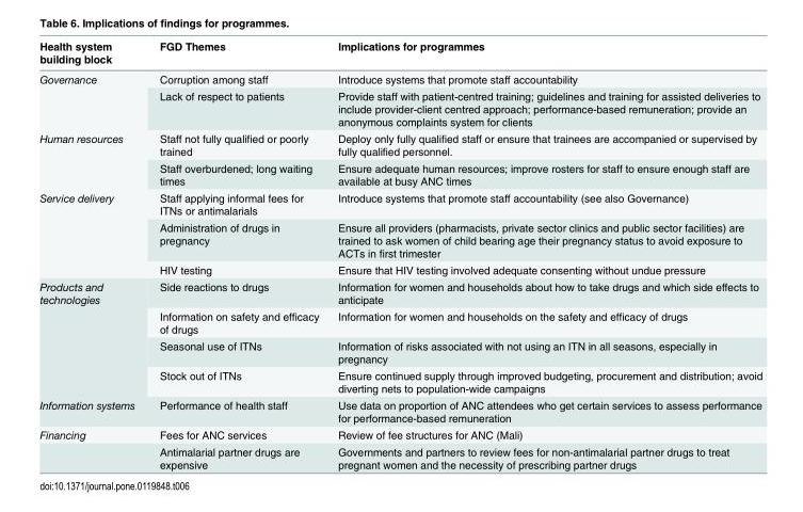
<table><thead><tr><td>Health system building block</td><td>FGD Themes</td><td>Implications for programmes</td></tr></thead><tbody><tr><td rowspan="2">Governance</td><td>Corruption among staff</td><td>Introduce systems that promote staff accountability</td></tr><tr><td>Lack of respect to patients</td><td>Provide staff with patient-centred training; guidelines and training for assisted deliveries to include provider-client centred approach; performance-based remuneration; provide an anonymous complaints system for clients</td></tr><tr><td rowspan="2">Human resources</td><td>Staff not fully qualified or poorly trained</td><td>Deploy only fully qualified staff or ensure that trainees are accompanied or supervised by fully qualified personnel.</td></tr><tr><td>Staff overburdened; long waiting times</td><td>Ensure adequate human resources; improve rosters for staff to ensure enough staff are available at busy ANC times</td></tr><tr><td rowspan="3">Service delivery</td><td>Staff applying informal fees for ITNs or antimalarials</td><td>Introduce systems that promote staff accountability (see also Governance)</td></tr><tr><td>Administration of drugs in pregnancy</td><td>Ensure all providers (pharmacists, private sector clinics and public sector facilities) are trained to ask women of child bearing age their pregnancy status to avoid exposure to ACTs in first trimester</td></tr><tr><td>HIV testing</td><td>Ensure that HIV testing involved adequate consenting without undue pressure</td></tr><tr><td rowspan="4">Products and technologies</td><td>Side reactions to drugs</td><td>Information for women and households about how to take drugs and which side effects to anticipate</td></tr><tr><td>Information on safety and efficacy of drugs</td><td>Information for women and households on the safety and efficacy of drugs</td></tr><tr><td>Seasonal use of ITNs</td><td>Information of risks associated with not using an ITN in all seasons, especially in pregnancy</td></tr><tr><td>Stock out of ITNs</td><td>Ensure continued supply through improved budgeting, procurement and distribution; avoid diverting nets to population-wide campaigns</td></tr><tr><td>Information systems</td><td>Performance of health staff</td><td>Use data on proportion of ANC attendees who get certain services to assess performance for performance-based remuneration</td></tr><tr><td rowspan="2">Financing</td><td>Fees for ANC services</td><td>Review of fee structures for ANC (Mali)</td></tr><tr><td>Antimalarial partner drugs are expensive</td><td>Governments and partners to review fees for non-antimalarial partner drugs to treat pregnant women and the necessity of prescribing partner drugs</td></tr></tbody></table>